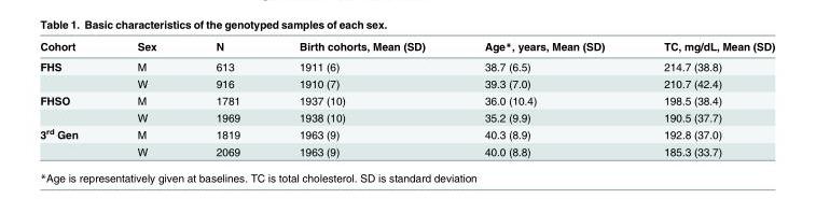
<table><thead><tr><td>Cohort</td><td>Sex</td><td>N</td><td>Birth cohorts, Mean (SD)</td><td>Age*, years, Mean (SD)</td><td>TC, mg/dL, Mean (SD)</td></tr></thead><tbody><tr><td rowspan="2">FHS</td><td>M</td><td>613</td><td>1911 (6)</td><td>38.7 (6.5)</td><td>214.7 (38.8)</td></tr><tr><td>W</td><td>916</td><td>1910 (7)</td><td>39.3 (7.0)</td><td>210.7 (42.4)</td></tr><tr><td rowspan="2">FHSO</td><td>M</td><td>1781</td><td>1937 (10)</td><td>36.0 (10.4)</td><td>198.5 (38.4)</td></tr><tr><td>W</td><td>1969</td><td>1938 (10)</td><td>35.2 (9.9)</td><td>190.5 (37.7)</td></tr><tr><td rowspan="2">3<sup>rd</sup> Gen</td><td>M</td><td>1819</td><td>1963 (9)</td><td>40.3 (8.9)</td><td>192.8 (37.0)</td></tr><tr><td>W</td><td>2069</td><td>1963 (9)</td><td>40.0 (8.8)</td><td>185.3 (33.7)</td></tr></tbody></table>